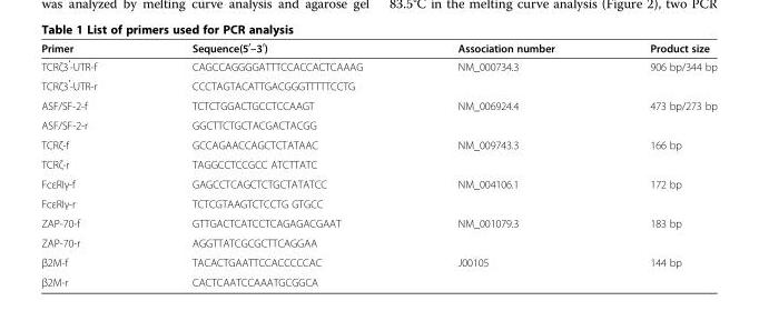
<table><thead><tr><td>Primer</td><td>Sequence(50–30)</td><td>Association number</td><td>Product size</td></tr></thead><tbody><tr><td>TCRζ3<sup>′</sup>-UTR-f</td><td>CAGCCAGGGGATTTCCACCACTCAAAG</td><td rowspan="2">NM_000734.3</td><td rowspan="2">906 bp/344 bp</td></tr><tr><td>TCRζ3<sup>′</sup>-UTR-r</td><td>CCCTAGTACATTGACGGGTTTTTCCTG</td></tr><tr><td>ASF/SF-2-f</td><td>TCTCTGGACTGCCTCCAAGT</td><td rowspan="2">NM_006924.4</td><td rowspan="2">473 bp/273 bp</td></tr><tr><td>ASF/SF-2-r</td><td>GGCTTCTGCTACGACTACGG</td></tr><tr><td>TCRζ-f</td><td>GCCAGAACCAGCTCTATAAC</td><td rowspan="2">NM_009743.3</td><td rowspan="2">166 bp</td></tr><tr><td>TCRζ-r</td><td>TAGGCCTCCGCC ATCTTATC</td></tr><tr><td>FcεRIγ-f</td><td>GAGCCTCAGCTCTGCTATATCC</td><td rowspan="2">NM_004106.1</td><td rowspan="2">172 bp</td></tr><tr><td>FcεRIγ-r</td><td>TCTCGTAAGTCTCCTG GTGCC</td></tr><tr><td>ZAP-70-f</td><td>GTTGACTCATCCTCAGAGACGAAT</td><td rowspan="2">NM_001079.3</td><td rowspan="2">183 bp</td></tr><tr><td>ZAP-70-r</td><td>AGGTTATCGCGCTTCAGGAA</td></tr><tr><td>β2M-f</td><td>TACACTGAATTCCACCCCCAC</td><td rowspan="2">J00105</td><td rowspan="2">144 bp</td></tr><tr><td>β2M-r</td><td>CACTCAATCCAAATGCGGCA</td></tr></tbody></table>